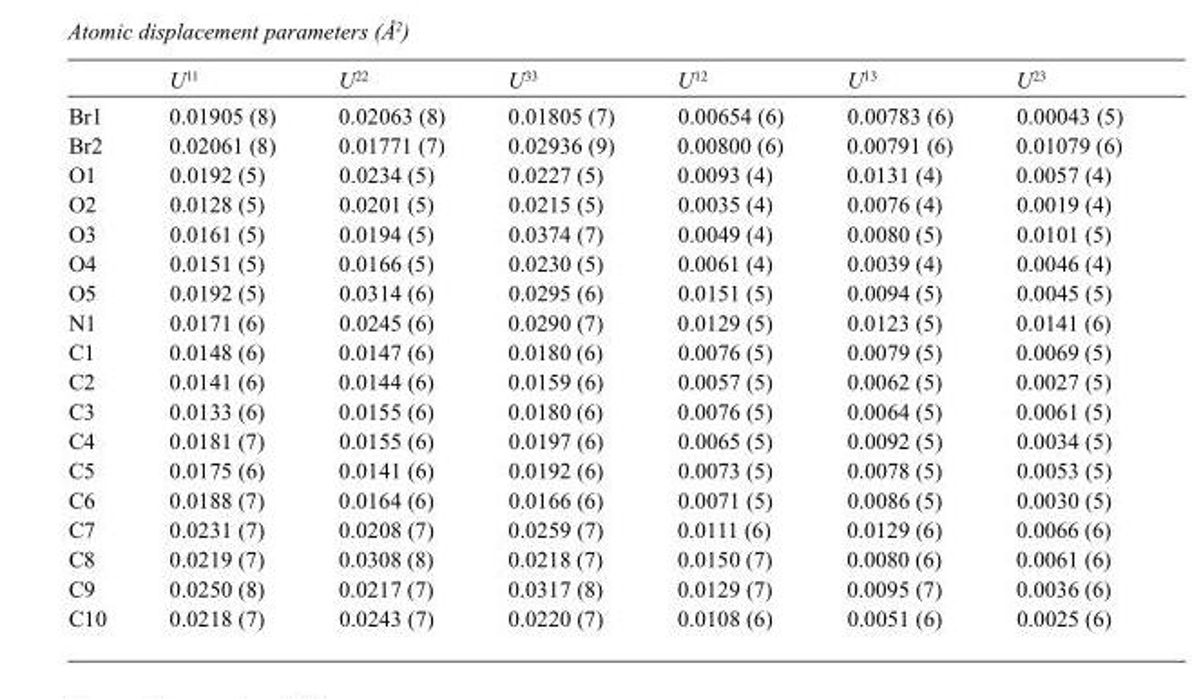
<table><thead><tr><td></td><td>U<sup>11</sup></td><td>U<sup>22</sup></td><td>U<sup>33</sup></td><td>U<sup>12</sup></td><td>U<sup>13</sup></td><td>U<sup>23</sup></td></tr></thead><tbody><tr><td>Br1</td><td>0.01905 (8)</td><td>0.02063 (8)</td><td>0.01805 (7)</td><td>0.00654 (6)</td><td>0.00783 (6)</td><td>0.00043 (5)</td></tr><tr><td>Br2</td><td>0.02061 (8)</td><td>0.01771 (7)</td><td>0.02936 (9)</td><td>0.00800 (6)</td><td>0.00791 (6)</td><td>0.01079 (6)</td></tr><tr><td>O1</td><td>0.0192 (5)</td><td>0.0234 (5)</td><td>0.0227 (5)</td><td>0.0093 (4)</td><td>0.0131 (4)</td><td>0.0057 (4)</td></tr><tr><td>O2</td><td>0.0128 (5)</td><td>0.0201 (5)</td><td>0.0215 (5)</td><td>0.0035 (4)</td><td>0.0076 (4)</td><td>0.0019 (4)</td></tr><tr><td>O3</td><td>0.0161 (5)</td><td>0.0194 (5)</td><td>0.0374 (7)</td><td>0.0049 (4)</td><td>0.0080 (5)</td><td>0.0101 (5)</td></tr><tr><td>O4</td><td>0.0151 (5)</td><td>0.0166 (5)</td><td>0.0230 (5)</td><td>0.0061 (4)</td><td>0.0039 (4)</td><td>0.0046 (4)</td></tr><tr><td>O5</td><td>0.0192 (5)</td><td>0.0314 (6)</td><td>0.0295 (6)</td><td>0.0151 (5)</td><td>0.0094 (5)</td><td>0.0045 (5)</td></tr><tr><td>N1</td><td>0.0171 (6)</td><td>0.0245 (6)</td><td>0.0290 (7)</td><td>0.0129 (5)</td><td>0.0123 (5)</td><td>0.0141 (6)</td></tr><tr><td>C1</td><td>0.0148 (6)</td><td>0.0147 (6)</td><td>0.0180 (6)</td><td>0.0076 (5)</td><td>0.0079 (5)</td><td>0.0069 (5)</td></tr><tr><td>C2</td><td>0.0141 (6)</td><td>0.0144 (6)</td><td>0.0159 (6)</td><td>0.0057 (5)</td><td>0.0062 (5)</td><td>0.0027 (5)</td></tr><tr><td>C3</td><td>0.0133 (6)</td><td>0.0155 (6)</td><td>0.0180 (6)</td><td>0.0076 (5)</td><td>0.0064 (5)</td><td>0.0061 (5)</td></tr><tr><td>C4</td><td>0.0181 (7)</td><td>0.0155 (6)</td><td>0.0197 (6)</td><td>0.0065 (5)</td><td>0.0092 (5)</td><td>0.0034 (5)</td></tr><tr><td>C5</td><td>0.0175 (6)</td><td>0.0141 (6)</td><td>0.0192 (6)</td><td>0.0073 (5)</td><td>0.0078 (5)</td><td>0.0053 (5)</td></tr><tr><td>C6</td><td>0.0188 (7)</td><td>0.0164 (6)</td><td>0.0166 (6)</td><td>0.0071 (5)</td><td>0.0086 (5)</td><td>0.0030 (5)</td></tr><tr><td>C7</td><td>0.0231 (7)</td><td>0.0208 (7)</td><td>0.0259 (7)</td><td>0.0111 (6)</td><td>0.0129 (6)</td><td>0.0066 (6)</td></tr><tr><td>C8</td><td>0.0219 (7)</td><td>0.0308 (8)</td><td>0.0218 (7)</td><td>0.0150 (7)</td><td>0.0080 (6)</td><td>0.0061 (6)</td></tr><tr><td>C9</td><td>0.0250 (8)</td><td>0.0217 (7)</td><td>0.0317 (8)</td><td>0.0129 (7)</td><td>0.0095 (7)</td><td>0.0036 (6)</td></tr><tr><td>C10</td><td>0.0218 (7)</td><td>0.0243 (7)</td><td>0.0220 (7)</td><td>0.0108 (6)</td><td>0.0051 (6)</td><td>0.0025 (6)</td></tr></tbody></table>